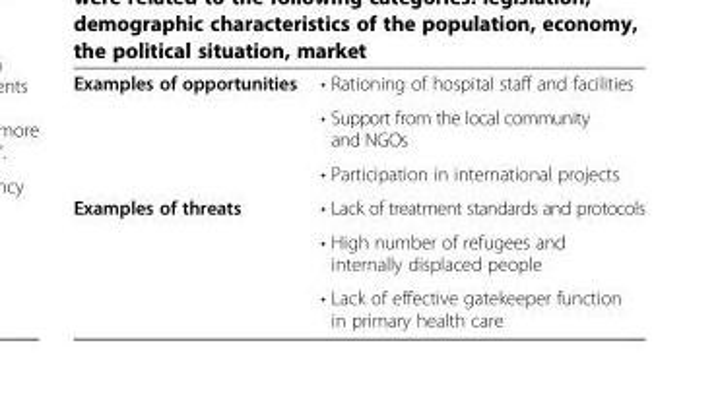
<table><tbody><tr><td rowspan="3">Examples of opportunities</td><td>• Rationing of hospital staff and facilities</td></tr><tr><td>• Support from the local community and NGOs</td></tr><tr><td>• Participation in international projects</td></tr><tr><td rowspan="3">Examples of threats</td><td>• Lack of treatment standards and protocols</td></tr><tr><td>• High number of refugees and internally displaced people</td></tr><tr><td>• Lack of effective gatekeeper function in primary health care</td></tr></tbody></table>